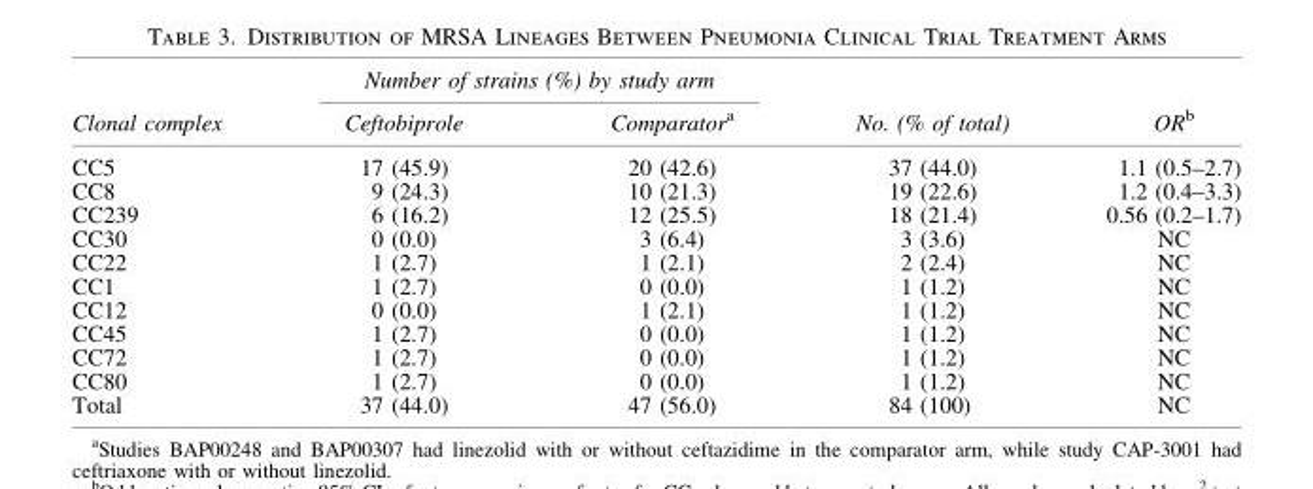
<table><thead><tr><td rowspan="2">Clonal complex</td><td colspan="2">Number of strains (%) by study arm</td><td rowspan="2">No. (% of total)</td><td rowspan="2">OR<sup>b</sup></td></tr><tr><td>Ceftobiprole</td><td>Comparator<sup>a</sup></td></tr></thead><tbody><tr><td>CC5</td><td>17 (45.9)</td><td>20 (42.6)</td><td>37 (44.0)</td><td>1.1 (0.5–2.7)</td></tr><tr><td>CC8</td><td>9 (24.3)</td><td>10 (21.3)</td><td>19 (22.6)</td><td>1.2 (0.4–3.3)</td></tr><tr><td>CC239</td><td>6 (16.2)</td><td>12 (25.5)</td><td>18 (21.4)</td><td>0.56 (0.2–1.7)</td></tr><tr><td>CC30</td><td>0 (0.0)</td><td>3 (6.4)</td><td>3 (3.6)</td><td>NC</td></tr><tr><td>CC22</td><td>1 (2.7)</td><td>1 (2.1)</td><td>2 (2.4)</td><td>NC</td></tr><tr><td>CC1</td><td>1 (2.7)</td><td>0 (0.0)</td><td>1 (1.2)</td><td>NC</td></tr><tr><td>CC12</td><td>0 (0.0)</td><td>1 (2.1)</td><td>1 (1.2)</td><td>NC</td></tr><tr><td>CC45</td><td>1 (2.7)</td><td>0 (0.0)</td><td>1 (1.2)</td><td>NC</td></tr><tr><td>CC72</td><td>1 (2.7)</td><td>0 (0.0)</td><td>1 (1.2)</td><td>NC</td></tr><tr><td>CC80</td><td>1 (2.7)</td><td>0 (0.0)</td><td>1 (1.2)</td><td>NC</td></tr><tr><td>Total</td><td>37 (44.0)</td><td>47 (56.0)</td><td>84 (100)</td><td>NC</td></tr></tbody></table>